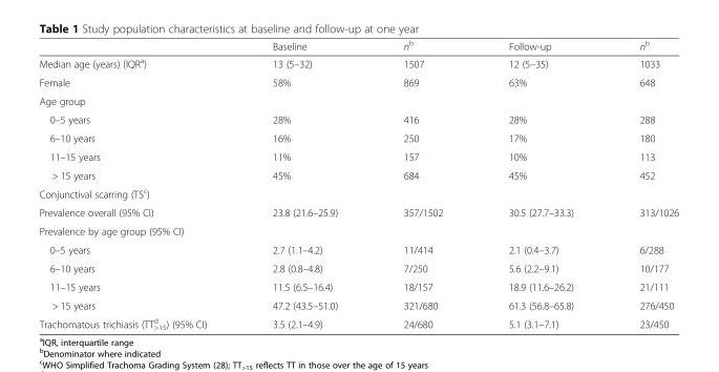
<table><thead><tr><td></td><td>Baseline</td><td>n<sup>b</sup></td><td>Follow-up</td><td>n<sup>b</sup></td></tr></thead><tbody><tr><td>Median age (years) (IQR<sup>a</sup>)</td><td>13 (5–32)</td><td>1507</td><td>12 (5–35)</td><td>1033</td></tr><tr><td>Female</td><td>58%</td><td>869</td><td>63%</td><td>648</td></tr><tr><td colspan="5">Age group</td></tr><tr><td>0–5 years</td><td>28%</td><td>416</td><td>28%</td><td>288</td></tr><tr><td>6–10 years</td><td>16%</td><td>250</td><td>17%</td><td>180</td></tr><tr><td>11–15 years</td><td>11%</td><td>157</td><td>10%</td><td>113</td></tr><tr><td>&gt; 15 years</td><td>45%</td><td>684</td><td>45%</td><td>452</td></tr><tr><td colspan="5">Conjunctival scarring (TS<sup>c</sup>)</td></tr><tr><td>Prevalence overall (95% CI)</td><td>23.8 (21.6–25.9)</td><td>357/1502</td><td>30.5 (27.7–33.3)</td><td>313/1026</td></tr><tr><td colspan="5">Prevalence by age group (95% CI)</td></tr><tr><td>0–5 years</td><td>2.7 (1.1–4.2)</td><td>11/414</td><td>2.1 (0.4–3.7)</td><td>6/288</td></tr><tr><td>6–10 years</td><td>2.8 (0.8–4.8)</td><td>7/250</td><td>5.6 (2.2–9.1)</td><td>10/177</td></tr><tr><td>11–15 years</td><td>11.5 (6.5–16.4)</td><td>18/157</td><td>18.9 (11.6–26.2)</td><td>21/111</td></tr><tr><td>&gt; 15 years</td><td>47.2 (43.5–51.0)</td><td>321/680</td><td>61.3 (56.8–65.8)</td><td>276/450</td></tr><tr><td>Trachomatous trichiasis (TT<sub>&gt;15</sub> <sup>d</sup> ) (95% CI)</td><td>3.5 (2.1–4.9)</td><td>24/680</td><td>5.1 (3.1–7.1)</td><td>23/450</td></tr></tbody></table>